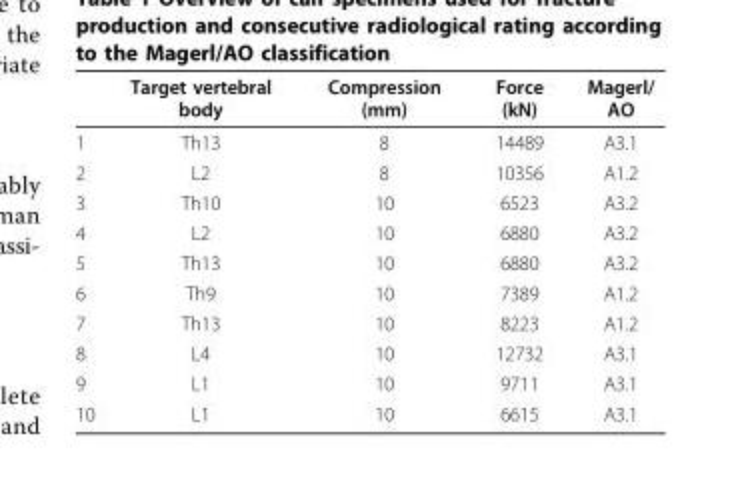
<table><thead><tr><td></td><td>Target vertebral body</td><td>Compression (mm)</td><td>Force (kN)</td><td>Magerl/ AO</td></tr></thead><tbody><tr><td>1</td><td>Th13</td><td>8</td><td>14489</td><td>A3.1</td></tr><tr><td>2</td><td>L2</td><td>8</td><td>10356</td><td>A1.2</td></tr><tr><td>3</td><td>Th10</td><td>10</td><td>6523</td><td>A3.2</td></tr><tr><td>4</td><td>L2</td><td>10</td><td>6880</td><td>A3.2</td></tr><tr><td>5</td><td>Th13</td><td>10</td><td>6880</td><td>A3.2</td></tr><tr><td>6</td><td>Th9</td><td>10</td><td>7389</td><td>A1.2</td></tr><tr><td>7</td><td>Th13</td><td>10</td><td>8223</td><td>A1.2</td></tr><tr><td>8</td><td>L4</td><td>10</td><td>12732</td><td>A3.1</td></tr><tr><td>9</td><td>L1</td><td>10</td><td>9711</td><td>A3.1</td></tr><tr><td>10</td><td>L1</td><td>10</td><td>6615</td><td>A3.1</td></tr></tbody></table>